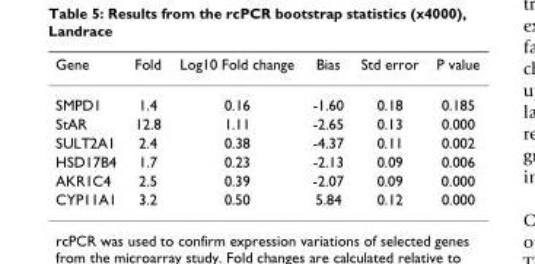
<table><thead><tr><td>Gene</td><td>Fold</td><td>Log10 Fold change</td><td>Bias</td><td>Std error</td><td>P value</td></tr></thead><tbody><tr><td>SMPD1</td><td>1.4</td><td>0.16</td><td>-1.60</td><td>0.18</td><td>0.185</td></tr><tr><td>StAR</td><td>12.8</td><td>1.11</td><td>-2.65</td><td>0.13</td><td>0.000</td></tr><tr><td>SULT2A1</td><td>2.4</td><td>0.38</td><td>-4.37</td><td>0.11</td><td>0.002</td></tr><tr><td>HSD17B4</td><td>1.7</td><td>0.23</td><td>-2.13</td><td>0.09</td><td>0.006</td></tr><tr><td>AKR1C4</td><td>2.5</td><td>0.39</td><td>-2.07</td><td>0.09</td><td>0.000</td></tr><tr><td>CYP11A1</td><td>3.2</td><td>0.50</td><td>5.84</td><td>0.12</td><td>0.000</td></tr></tbody></table>